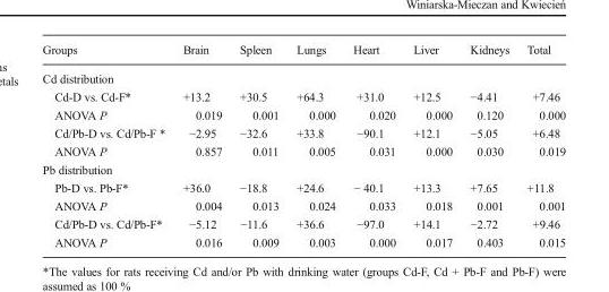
<table><thead><tr><td>Groups</td><td>Brain</td><td>Spleen</td><td>Lungs</td><td>Heart</td><td>Liver</td><td>Kidneys</td><td>Total</td></tr></thead><tbody><tr><td colspan="8">Cd distribution</td></tr><tr><td>Cd-D vs. Cd-F*</td><td>+13.2</td><td>+30.5</td><td>+64.3</td><td>+31.0</td><td>+12.5</td><td>−4.41</td><td>+7.46</td></tr><tr><td>ANOVA P</td><td>0.019</td><td>0.001</td><td>0.000</td><td>0.020</td><td>0.000</td><td>0.120</td><td>0.000</td></tr><tr><td>Cd/Pb-D vs. Cd/Pb-F *</td><td>−2.95</td><td>−32.6</td><td>+33.8</td><td>−90.1</td><td>+12.1</td><td>−5.05</td><td>+6.48</td></tr><tr><td>ANOVA P</td><td>0.857</td><td>0.011</td><td>0.005</td><td>0.031</td><td>0.000</td><td>0.030</td><td>0.019</td></tr><tr><td colspan="8">Pb distribution</td></tr><tr><td>Pb-D vs. Pb-F*</td><td>+36.0</td><td>−18.8</td><td>+24.6</td><td>− 40.1</td><td>+13.3</td><td>+7.65</td><td>+11.8</td></tr><tr><td>ANOVA P</td><td>0.004</td><td>0.013</td><td>0.024</td><td>0.033</td><td>0.018</td><td>0.001</td><td>0.001</td></tr><tr><td>Cd/Pb-D vs. Cd/Pb-F*</td><td>−5.12</td><td>−11.6</td><td>+36.6</td><td>−97.0</td><td>+14.1</td><td>−2.72</td><td>+9.46</td></tr><tr><td>ANOVA P</td><td>0.016</td><td>0.009</td><td>0.003</td><td>0.000</td><td>0.017</td><td>0.403</td><td>0.015</td></tr></tbody></table>